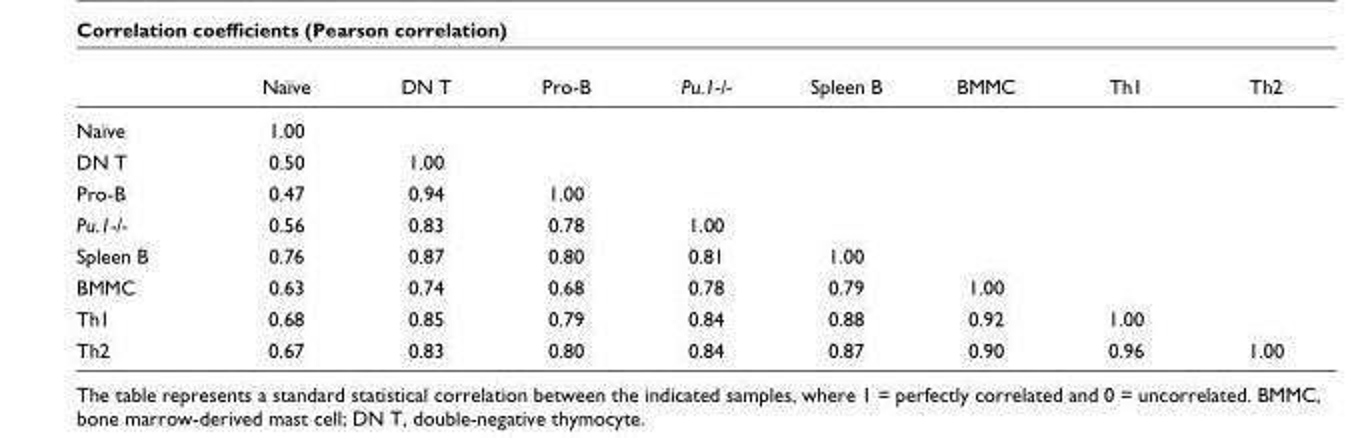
<table><thead><tr><td></td><td>Naïve</td><td>DN T</td><td>Pro-B</td><td>Pu.1-/-</td><td>Spleen B</td><td>BMMC</td><td>Th1</td><td>Th2</td></tr></thead><tbody><tr><td>Naïve</td><td>1.00</td><td></td><td></td><td></td><td></td><td></td><td></td><td></td></tr><tr><td>DN T</td><td>0.50</td><td>1.00</td><td></td><td></td><td></td><td></td><td></td><td></td></tr><tr><td>Pro-B</td><td>0.47</td><td>0.94</td><td>1.00</td><td></td><td></td><td></td><td></td><td></td></tr><tr><td>Pu.1-/-</td><td>0.56</td><td>0.83</td><td>0.78</td><td>1.00</td><td></td><td></td><td></td><td></td></tr><tr><td>Spleen B</td><td>0.76</td><td>0.87</td><td>0.80</td><td>0.81</td><td>1.00</td><td></td><td></td><td></td></tr><tr><td>BMMC</td><td>0.63</td><td>0.74</td><td>0.68</td><td>0.78</td><td>0.79</td><td>1.00</td><td></td><td></td></tr><tr><td>Th1</td><td>0.68</td><td>0.85</td><td>0.79</td><td>0.84</td><td>0.88</td><td>0.92</td><td>1.00</td><td></td></tr><tr><td>Th2</td><td>0.67</td><td>0.83</td><td>0.80</td><td>0.84</td><td>0.87</td><td>0.90</td><td>0.96</td><td>1.00</td></tr></tbody></table>